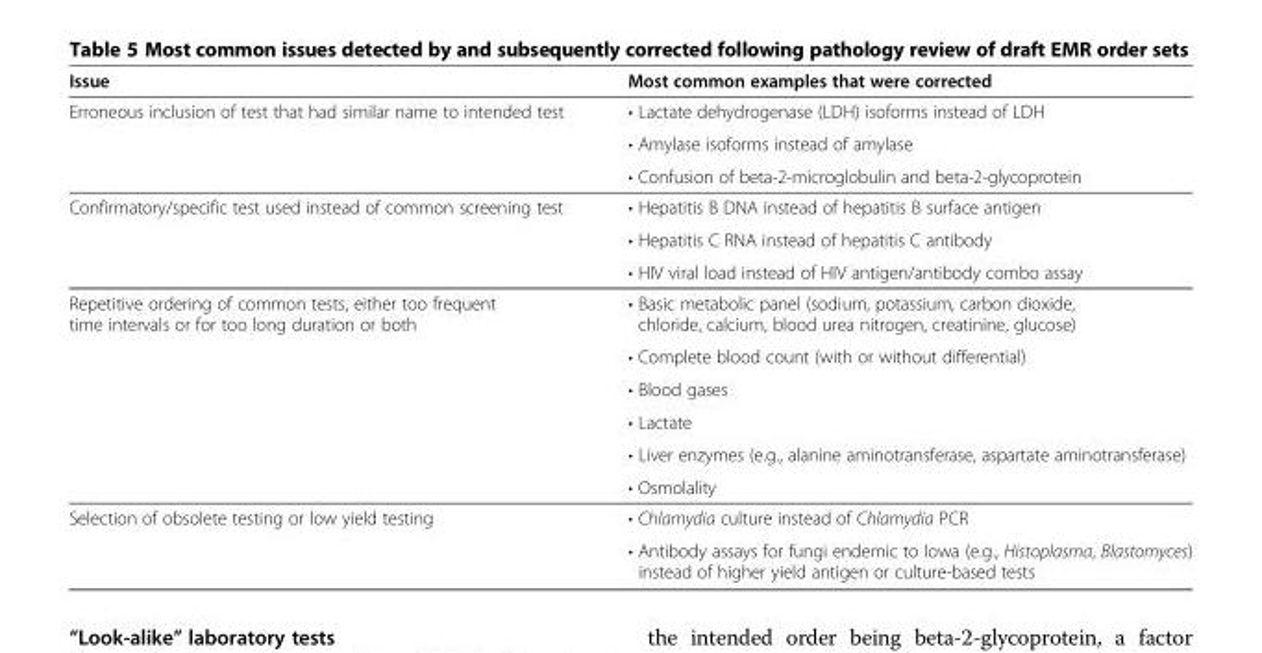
<table><thead><tr><td>Issue</td><td>Most common examples that were corrected</td></tr></thead><tbody><tr><td rowspan="3">Erroneous inclusion of test that had similar name to intended test</td><td>• Lactate dehydrogenase (LDH) isoforms instead of LDH</td></tr><tr><td>• Amylase isoforms instead of amylase</td></tr><tr><td>• Confusion of beta-2-microglobulin and beta-2-glycoprotein</td></tr><tr><td rowspan="3">Confirmatory/specific test used instead of common screening test</td><td>• Hepatitis B DNA instead of hepatitis B surface antigen</td></tr><tr><td>• Hepatitis C RNA instead of hepatitis C antibody</td></tr><tr><td>• HIV viral load instead of HIV antigen/antibody combo assay</td></tr><tr><td rowspan="6">Repetitive ordering of common tests, either too frequent time intervals or for too long duration or both</td><td>• Basic metabolic panel (sodium, potassium, carbon dioxide, chloride, calcium, blood urea nitrogen, creatinine, glucose)</td></tr><tr><td>• Complete blood count (with or without differential)</td></tr><tr><td>• Blood gases</td></tr><tr><td>• Lactate</td></tr><tr><td>• Liver enzymes (e.g., alanine aminotransferase, aspartate aminotransferase)</td></tr><tr><td>• Osmolality</td></tr><tr><td rowspan="2">Selection of obsolete testing or low yield testing</td><td>• Chlamydia culture instead of Chlamydia PCR</td></tr><tr><td>• Antibody assays for fungi endemic to Iowa (e.g., Histoplasma, Blastomyces) instead of higher yield antigen or culture-based tests</td></tr></tbody></table>